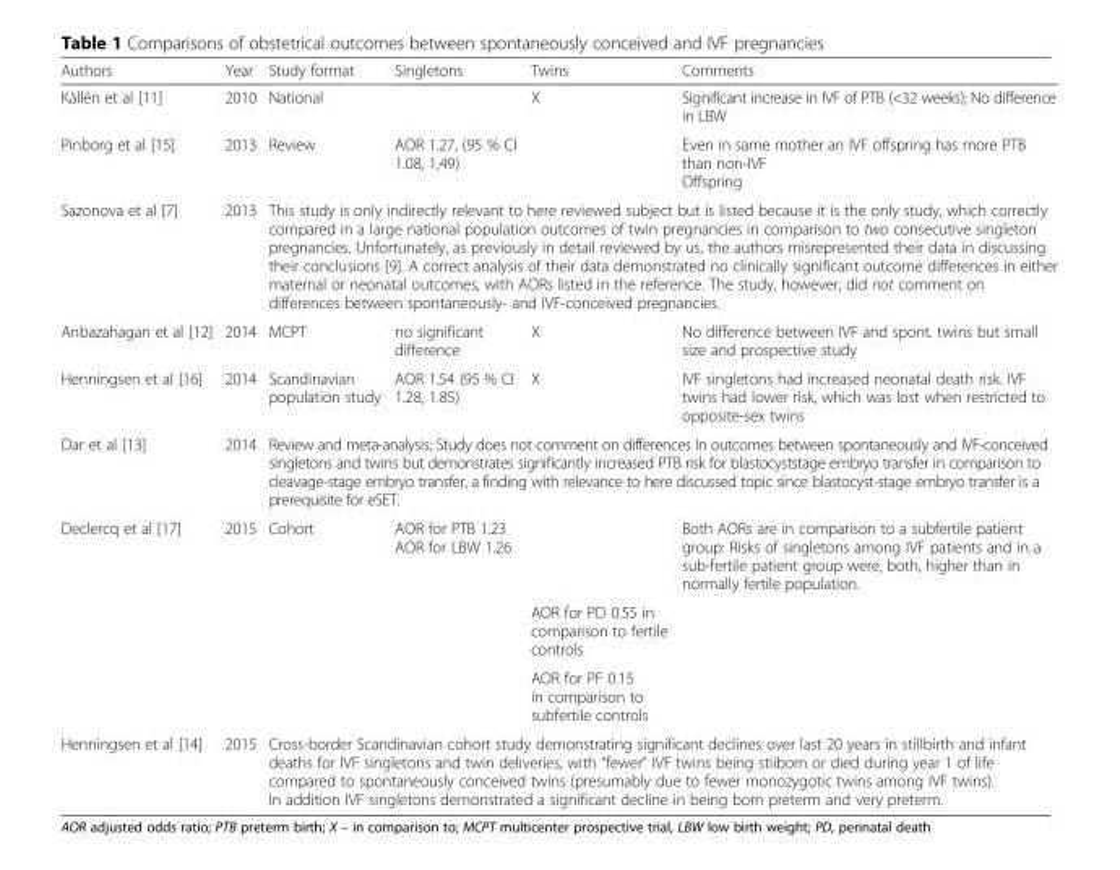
<table><thead><tr><td>Authors</td><td>Year</td><td>Study format</td><td>Singletons</td><td>Twins</td><td>Comments</td></tr></thead><tbody><tr><td>Källén et al [11]</td><td>2010</td><td>National</td><td></td><td>X</td><td>Significant increase in IVF of PTB (&lt;32 weeks); No difference in LBW</td></tr><tr><td>Pinborg et al [15]</td><td>2013</td><td>Review</td><td>AOR 1.27, (95 % CI 1.08, 1,49)</td><td></td><td>Even in same mother an IVF offspring has more PTB than non-IVF Offspring</td></tr><tr><td>Sazonova et al [7]</td><td>2013</td><td colspan="4">This study is only indirectly relevant to here reviewed subject but is listed because it is the only study, which correctly compared in a large national population outcomes of twin pregnancies in comparison to two consecutive singleton pregnancies. Unfortunately, as previously in detail reviewed by us, the authors misrepresented their data in discussing their conclusions [9]. A correct analysis of their data demonstrated no clinically significant outcome differences in either maternal or neonatal outcomes, with AORs listed in the reference. The study, however, did not comment on differences between spontaneously- and IVF-conceived pregnancies.</td></tr><tr><td>Anbazahagan et al [12]</td><td>2014</td><td>MCPT</td><td>no significant difference</td><td>X</td><td>No difference between IVF and spont. twins but small size and prospective study</td></tr><tr><td>Henningsen et al [16]</td><td>2014</td><td>Scandinavian population study</td><td>AOR 1.54 (95 % CI 1.28, 1.85)</td><td>X</td><td>IVF singletons had increased neonatal death risk. IVF twins had lower risk, which was lost when restricted to opposite-sex twins</td></tr><tr><td>Dar et al [13]</td><td>2014</td><td colspan="4">Review and meta-analysis; Study does not comment on differences In outcomes between spontaneously and IVF-conceived singletons and twins but demonstrates significantly increased PTB risk for blastocyststage embryo transfer in comparison to cleavage-stage embryo transfer, a finding with relevance to here discussed topic since blastocyst-stage embryo transfer is a prerequisite for eSET.</td></tr><tr><td rowspan="3">Declercq et al [17]</td><td>2015</td><td>Cohort</td><td>AOR for PTB 1.23 AOR for LBW 1.26</td><td></td><td>Both AORs are in comparison to a subfertile patient group: Risks of singletons among IVF patients and in a sub-fertile patient group were, both, higher than in normally fertile population.</td></tr><tr><td></td><td></td><td></td><td>AOR for PD 0.55 in comparison to fertile controls</td><td></td></tr><tr><td></td><td></td><td></td><td>AOR for PF 0.15 in comparison to subfertile controls</td><td></td></tr><tr><td>Henningsen et al [14]</td><td>2015</td><td colspan="4">Cross-border Scandinavian cohort study demonstrating significant declines over last 20 years in stillbirth and infant deaths for IVF singletons and twin deliveries, with “fewer” IVF twins being stiiborn or died during year 1 of life compared to spontaneously conceived twins (presumably due to fewer monozygotic twins among IVF twins). In addition IVF singletons demonstrated a significant decline in being born preterm and very preterm.</td></tr></tbody></table>